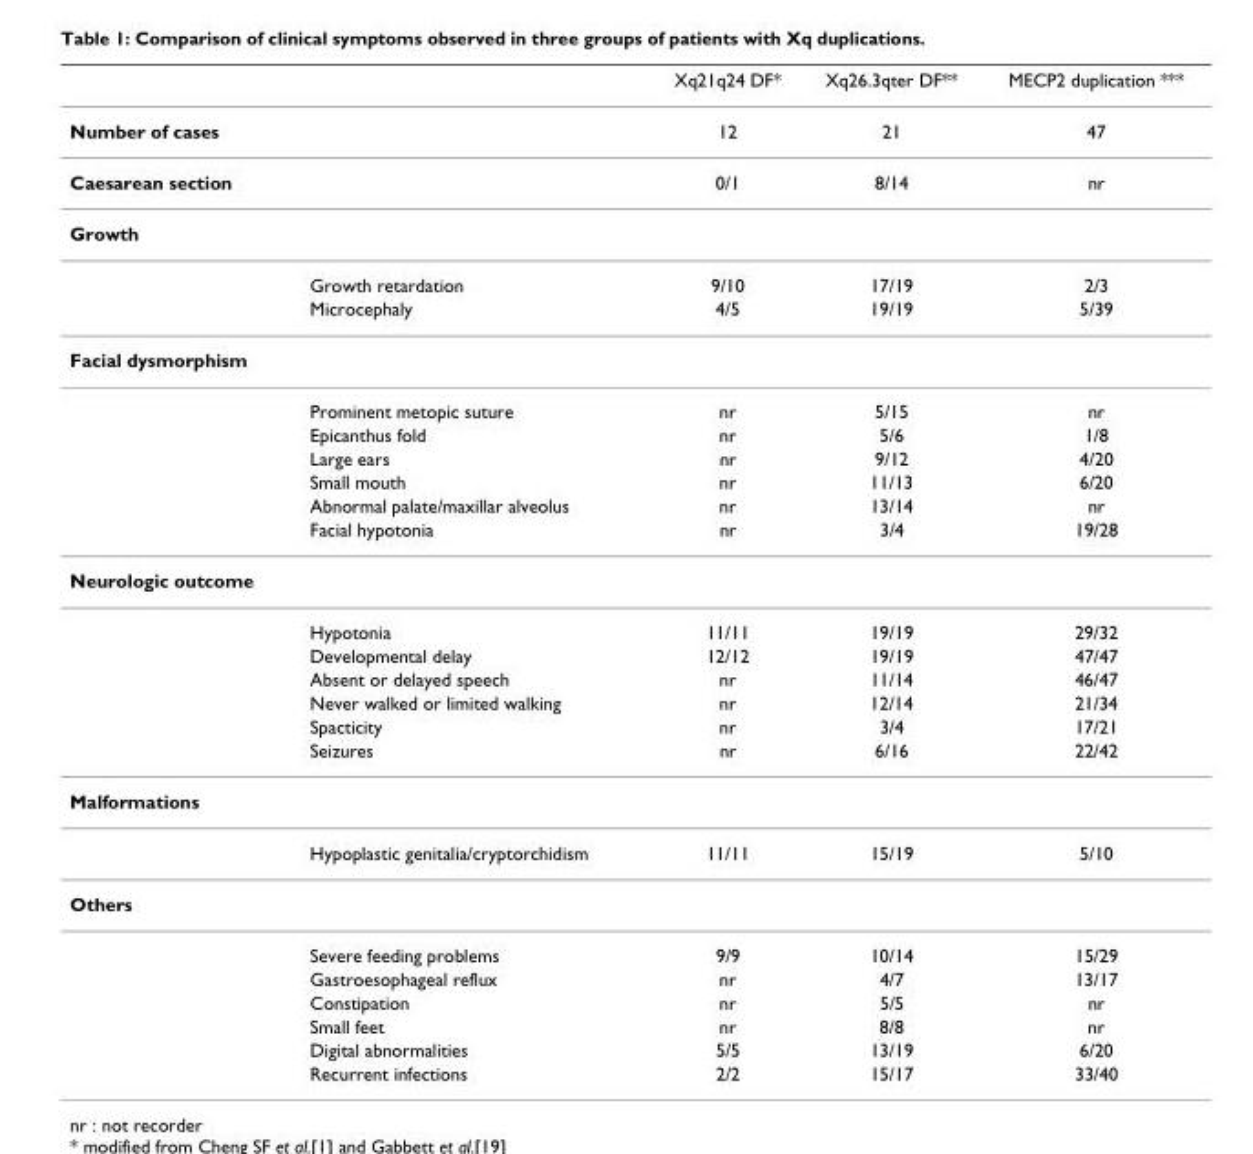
<table><thead><tr><td></td><td></td><td>Xq21q24 DF*</td><td>Xq26.3qter DF**</td><td>MECP2 duplication ***</td></tr></thead><tbody><tr><td>Number of cases</td><td></td><td>12</td><td>21</td><td>47</td></tr><tr><td>Caesarean section</td><td></td><td>0/1</td><td>8/14</td><td>nr</td></tr><tr><td colspan="5">Growth</td></tr><tr><td></td><td>Growth retardation</td><td>9/10</td><td>17/19</td><td>2/3</td></tr><tr><td></td><td>Microcephaly</td><td>4/5</td><td>19/19</td><td>5/39</td></tr><tr><td colspan="5">Facial dysmorphism</td></tr><tr><td></td><td>Prominent metopic suture</td><td>nr</td><td>5/15</td><td>nr</td></tr><tr><td></td><td>Epicanthus fold</td><td>nr</td><td>5/6</td><td>1/8</td></tr><tr><td></td><td>Large ears</td><td>nr</td><td>9/12</td><td>4/20</td></tr><tr><td></td><td>Small mouth</td><td>nr</td><td>11/13</td><td>6/20</td></tr><tr><td></td><td>Abnormal palate/maxillar alveolus</td><td>nr</td><td>13/14</td><td>nr</td></tr><tr><td></td><td>Facial hypotonia</td><td>nr</td><td>3/4</td><td>19/28</td></tr><tr><td colspan="5">Neurologic outcome</td></tr><tr><td></td><td>Hypotonia</td><td>11/11</td><td>19/19</td><td>29/32</td></tr><tr><td></td><td>Developmental delay</td><td>12/12</td><td>19/19</td><td>47/47</td></tr><tr><td></td><td>Absent or delayed speech</td><td>nr</td><td>11/14</td><td>46/47</td></tr><tr><td></td><td>Never walked or limited walking</td><td>nr</td><td>12/14</td><td>21/34</td></tr><tr><td></td><td>Spacticity</td><td>nr</td><td>3/4</td><td>17/21</td></tr><tr><td></td><td>Seizures</td><td>nr</td><td>6/16</td><td>22/42</td></tr><tr><td colspan="5">Malformations</td></tr><tr><td></td><td>Hypoplastic genitalia/cryptorchidism</td><td>11/11</td><td>15/19</td><td>5/10</td></tr><tr><td colspan="5">Others</td></tr><tr><td></td><td>Severe feeding problems</td><td>9/9</td><td>10/14</td><td>15/29</td></tr><tr><td></td><td>Gastroesophageal reflux</td><td>nr</td><td>4/7</td><td>13/17</td></tr><tr><td></td><td>Constipation</td><td>nr</td><td>5/5</td><td>nr</td></tr><tr><td></td><td>Small feet</td><td>nr</td><td>8/8</td><td>nr</td></tr><tr><td></td><td>Digital abnormalities</td><td>5/5</td><td>13/19</td><td>6/20</td></tr><tr><td></td><td>Recurrent infections</td><td>2/2</td><td>15/17</td><td>33/40</td></tr></tbody></table>